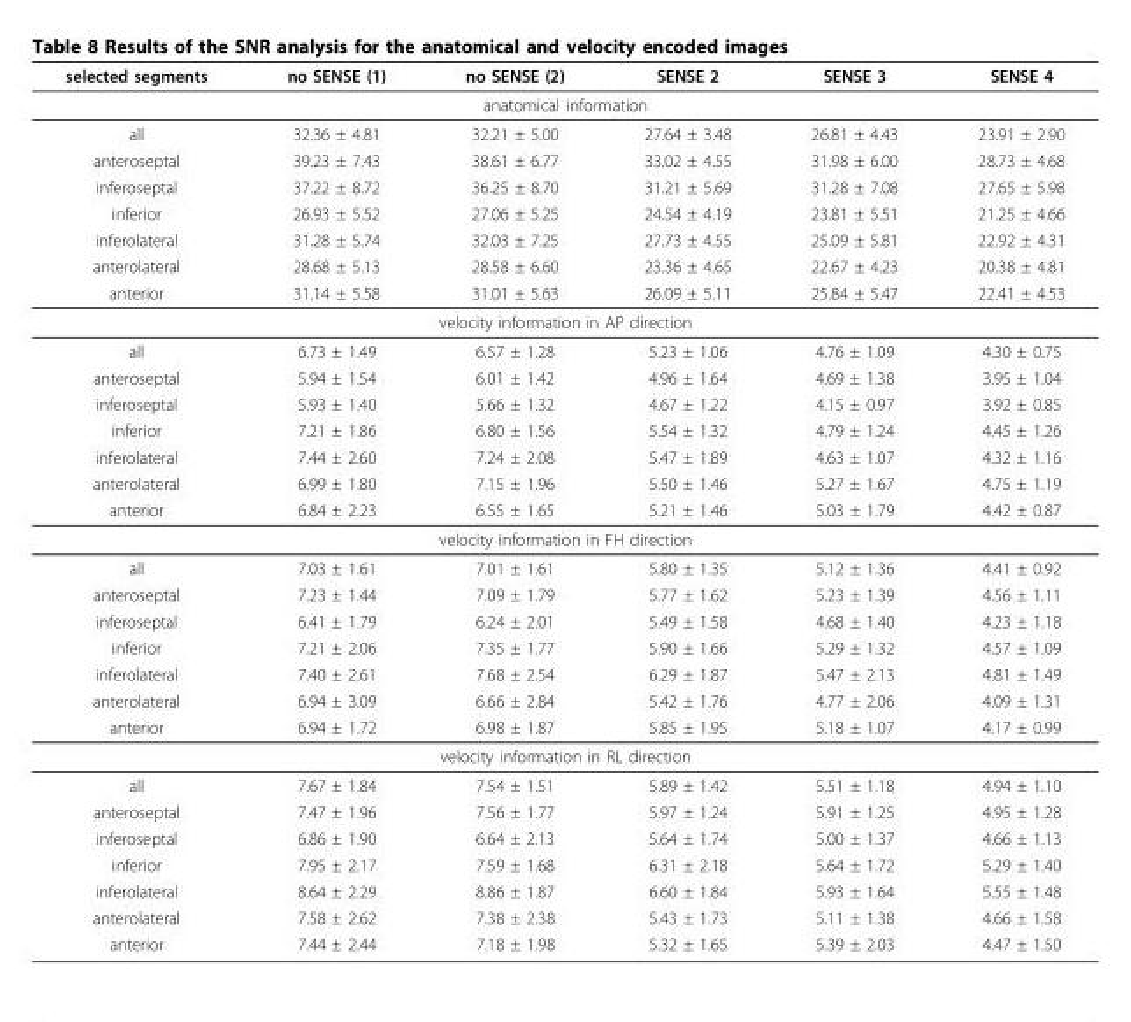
<table><thead><tr><td>selected segments</td><td>no SENSE (1)</td><td>no SENSE (2)</td><td>SENSE 2</td><td>SENSE 3</td><td>SENSE 4</td></tr></thead><tbody><tr><td colspan="6">anatomical information</td></tr><tr><td>all</td><td>32.36 ± 4.81</td><td>32.21 ± 5.00</td><td>27.64 ± 3.48</td><td>26.81 ± 4.43</td><td>23.91 ± 2.90</td></tr><tr><td>anteroseptal</td><td>39.23 ± 7.43</td><td>38.61 ± 6.77</td><td>33.02 ± 4.55</td><td>31.98 ± 6.00</td><td>28.73 ± 4.68</td></tr><tr><td>inferoseptal</td><td>37.22 ± 8.72</td><td>36.25 ± 8.70</td><td>31.21 ± 5.69</td><td>31.28 ± 7.08</td><td>27.65 ± 5.98</td></tr><tr><td>inferior</td><td>26.93 ± 5.52</td><td>27.06 ± 5.25</td><td>24.54 ± 4.19</td><td>23.81 ± 5.51</td><td>21.25 ± 4.66</td></tr><tr><td>inferolateral</td><td>31.28 ± 5.74</td><td>32.03 ± 7.25</td><td>27.73 ± 4.55</td><td>25.09 ± 5.81</td><td>22.92 ± 4.31</td></tr><tr><td>anterolateral</td><td>28.68 ± 5.13</td><td>28.58 ± 6.60</td><td>23.36 ± 4.65</td><td>22.67 ± 4.23</td><td>20.38 ± 4.81</td></tr><tr><td>anterior</td><td>31.14 ± 5.58</td><td>31.01 ± 5.63</td><td>26.09 ± 5.11</td><td>25.84 ± 5.47</td><td>22.41 ± 4.53</td></tr><tr><td colspan="6">velocity information in AP direction</td></tr><tr><td>all</td><td>6.73 ± 1.49</td><td>6.57 ± 1.28</td><td>5.23 ± 1.06</td><td>4.76 ± 1.09</td><td>4.30 ± 0.75</td></tr><tr><td>anteroseptal</td><td>5.94 ± 1.54</td><td>6.01 ± 1.42</td><td>4.96 ± 1.64</td><td>4.69 ± 1.38</td><td>3.95 ± 1.04</td></tr><tr><td>inferoseptal</td><td>5.93 ± 1.40</td><td>5.66 ± 1.32</td><td>4.67 ± 1.22</td><td>4.15 ± 0.97</td><td>3.92 ± 0.85</td></tr><tr><td>inferior</td><td>7.21 ± 1.86</td><td>6.80 ± 1.56</td><td>5.54 ± 1.32</td><td>4.79 ± 1.24</td><td>4.45 ± 1.26</td></tr><tr><td>inferolateral</td><td>7.44 ± 2.60</td><td>7.24 ± 2.08</td><td>5.47 ± 1.89</td><td>4.63 ± 1.07</td><td>4.32 ± 1.16</td></tr><tr><td>anterolateral</td><td>6.99 ± 1.80</td><td>7.15 ± 1.96</td><td>5.50 ± 1.46</td><td>5.27 ± 1.67</td><td>4.75 ± 1.19</td></tr><tr><td>anterior</td><td>6.84 ± 2.23</td><td>6.55 ± 1.65</td><td>5.21 ± 1.46</td><td>5.03 ± 1.79</td><td>4.42 ± 0.87</td></tr><tr><td colspan="6">velocity information in FH direction</td></tr><tr><td>all</td><td>7.03 ± 1.61</td><td>7.01 ± 1.61</td><td>5.80 ± 1.35</td><td>5.12 ± 1.36</td><td>4.41 ± 0.92</td></tr><tr><td>anteroseptal</td><td>7.23 ± 1.44</td><td>7.09 ± 1.79</td><td>5.77 ± 1.62</td><td>5.23 ± 1.39</td><td>4.56 ± 1.11</td></tr><tr><td>inferoseptal</td><td>6.41 ± 1.79</td><td>6.24 ± 2.01</td><td>5.49 ± 1.58</td><td>4.68 ± 1.40</td><td>4.23 ± 1.18</td></tr><tr><td>inferior</td><td>7.21 ± 2.06</td><td>7.35 ± 1.77</td><td>5.90 ± 1.66</td><td>5.29 ± 1.32</td><td>4.57 ± 1.09</td></tr><tr><td>inferolateral</td><td>7.40 ± 2.61</td><td>7.68 ± 2.54</td><td>6.29 ± 1.87</td><td>5.47 ± 2.13</td><td>4.81 ± 1.49</td></tr><tr><td>anterolateral</td><td>6.94 ± 3.09</td><td>6.66 ± 2.84</td><td>5.42 ± 1.76</td><td>4.77 ± 2.06</td><td>4.09 ± 1.31</td></tr><tr><td>anterior</td><td>6.94 ± 1.72</td><td>6.98 ± 1.87</td><td>5.85 ± 1.95</td><td>5.18 ± 1.07</td><td>4.17 ± 0.99</td></tr><tr><td colspan="6">velocity information in RL direction</td></tr><tr><td>all</td><td>7.67 ± 1.84</td><td>7.54 ± 1.51</td><td>5.89 ± 1.42</td><td>5.51 ± 1.18</td><td>4.94 ± 1.10</td></tr><tr><td>anteroseptal</td><td>7.47 ± 1.96</td><td>7.56 ± 1.77</td><td>5.97 ± 1.24</td><td>5.91 ± 1.25</td><td>4.95 ± 1.28</td></tr><tr><td>inferoseptal</td><td>6.86 ± 1.90</td><td>6.64 ± 2.13</td><td>5.64 ± 1.74</td><td>5.00 ± 1.37</td><td>4.66 ± 1.13</td></tr><tr><td>inferior</td><td>7.95 ± 2.17</td><td>7.59 ± 1.68</td><td>6.31 ± 2.18</td><td>5.64 ± 1.72</td><td>5.29 ± 1.40</td></tr><tr><td>inferolateral</td><td>8.64 ± 2.29</td><td>8.86 ± 1.87</td><td>6.60 ± 1.84</td><td>5.93 ± 1.64</td><td>5.55 ± 1.48</td></tr><tr><td>anterolateral</td><td>7.58 ± 2.62</td><td>7.38 ± 2.38</td><td>5.43 ± 1.73</td><td>5.11 ± 1.38</td><td>4.66 ± 1.58</td></tr><tr><td>anterior</td><td>7.44 ± 2.44</td><td>7.18 ± 1.98</td><td>5.32 ± 1.65</td><td>5.39 ± 2.03</td><td>4.47 ± 1.50</td></tr></tbody></table>